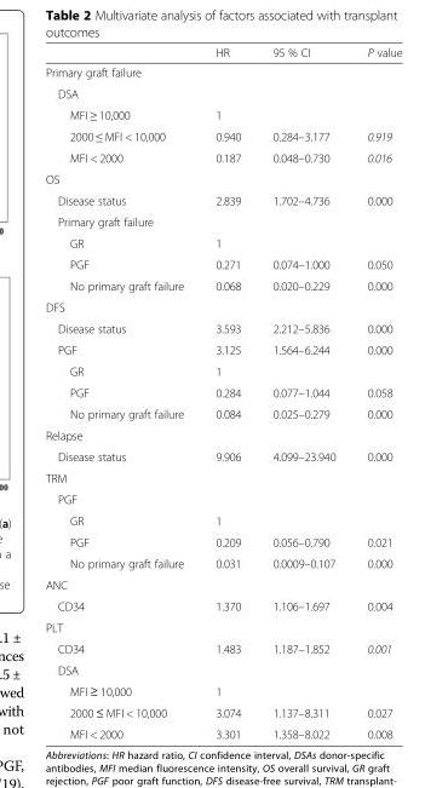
<table><thead><tr><td></td><td>HR</td><td>95 % CI</td><td>P value</td></tr></thead><tbody><tr><td colspan="4">Primary graft failure</td></tr><tr><td colspan="4">DSA</td></tr><tr><td>MFI ≥ 10,000</td><td>1</td><td></td><td></td></tr><tr><td>2000 ≤ MFI &lt; 10,000</td><td>0.940</td><td>0.284–3.177</td><td>0.919</td></tr><tr><td>MFI &lt; 2000</td><td>0.187</td><td>0.048–0.730</td><td>0.016</td></tr><tr><td colspan="4">OS</td></tr><tr><td>Disease status</td><td>2.839</td><td>1.702–4.736</td><td>0.000</td></tr><tr><td colspan="4">Primary graft failure</td></tr><tr><td>GR</td><td>1</td><td></td><td></td></tr><tr><td>PGF</td><td>0.271</td><td>0.074–1.000</td><td>0.050</td></tr><tr><td>No primary graft failure</td><td>0.068</td><td>0.020–0.229</td><td>0.000</td></tr><tr><td colspan="4">DFS</td></tr><tr><td>Disease status</td><td>3.593</td><td>2.212–5.836</td><td>0.000</td></tr><tr><td>PGF</td><td>3.125</td><td>1.564–6.244</td><td>0.000</td></tr><tr><td>GR</td><td>1</td><td></td><td></td></tr><tr><td>PGF</td><td>0.284</td><td>0.077–1.044</td><td>0.058</td></tr><tr><td>No primary graft failure</td><td>0.084</td><td>0.025–0.279</td><td>0.000</td></tr><tr><td colspan="4">Relapse</td></tr><tr><td>Disease status</td><td>9.906</td><td>4.099–23.940</td><td>0.000</td></tr><tr><td colspan="4">TRM</td></tr><tr><td colspan="4">PGF</td></tr><tr><td>GR</td><td>1</td><td></td><td></td></tr><tr><td>PGF</td><td>0.209</td><td>0.056–0.790</td><td>0.021</td></tr><tr><td>No primary graft failure</td><td>0.031</td><td>0.0009–0.107</td><td>0.000</td></tr><tr><td colspan="4">ANC</td></tr><tr><td>CD34</td><td>1.370</td><td>1.106–1.697</td><td>0.004</td></tr><tr><td colspan="4">PLT</td></tr><tr><td>CD34</td><td>1.483</td><td>1.187–1.852</td><td>0.001</td></tr><tr><td colspan="4">DSA</td></tr><tr><td>MFI ≥ 10,000</td><td>1</td><td></td><td></td></tr><tr><td>2000 ≤ MFI &lt; 10,000</td><td>3.074</td><td>1.137–8.311</td><td>0.027</td></tr><tr><td>MFI &lt; 2000</td><td>3.301</td><td>1.358–8.022</td><td>0.008</td></tr></tbody></table>